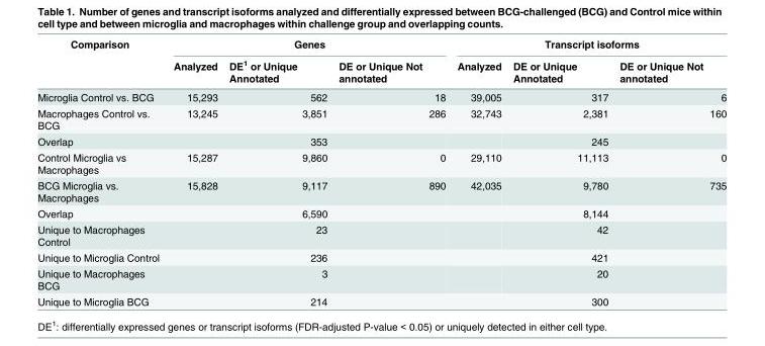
<table><thead><tr><td rowspan="2">Comparison</td><td colspan="3">Genes</td><td colspan="3">Transcript isoforms</td></tr><tr><td>Analyzed</td><td>DE<sup>1</sup> or Unique Annotated</td><td>DE or Unique Not annotated</td><td>Analyzed</td><td>DE or Unique Annotated</td><td>DE or Unique Not annotated</td></tr></thead><tbody><tr><td>Microglia Control vs. BCG</td><td>15,293</td><td>562</td><td>18</td><td>39,005</td><td>317</td><td>6</td></tr><tr><td>Macrophages Control vs. BCG</td><td>13,245</td><td>3,851</td><td>286</td><td>32,743</td><td>2,381</td><td>160</td></tr><tr><td>Overlap</td><td></td><td>353</td><td></td><td></td><td>245</td><td></td></tr><tr><td>Control Microglia vs Macrophages</td><td>15,287</td><td>9,860</td><td>0</td><td>29,110</td><td>11,113</td><td>0</td></tr><tr><td>BCG Microglia vs. Macrophages</td><td>15,828</td><td>9,117</td><td>890</td><td>42,035</td><td>9,780</td><td>735</td></tr><tr><td>Overlap</td><td></td><td>6,590</td><td></td><td></td><td>8,144</td><td></td></tr><tr><td>Unique to Macrophages Control</td><td></td><td>23</td><td></td><td></td><td>42</td><td></td></tr><tr><td>Unique to Microglia Control</td><td></td><td>236</td><td></td><td></td><td>421</td><td></td></tr><tr><td>Unique to Macrophages BCG</td><td></td><td>3</td><td></td><td></td><td>20</td><td></td></tr><tr><td>Unique to Microglia BCG</td><td></td><td>214</td><td></td><td></td><td>300</td><td></td></tr></tbody></table>